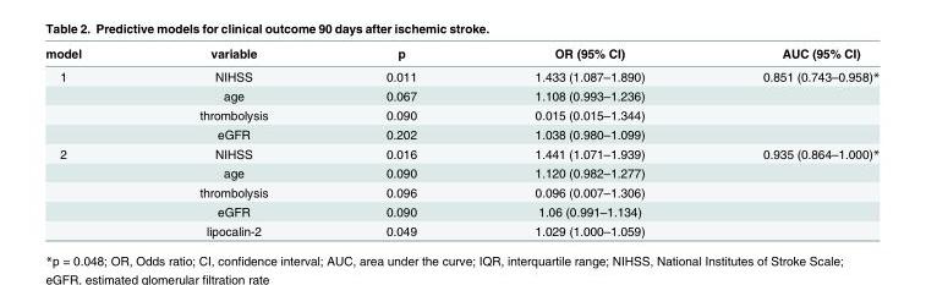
<table><thead><tr><td>model</td><td>variable</td><td>p</td><td>OR (95% CI)</td><td>AUC (95% CI)</td></tr></thead><tbody><tr><td rowspan="4">1</td><td>NIHSS</td><td>0.011</td><td>1.433 (1.087–1.890)</td><td>0.851 (0.743–0.958)*</td></tr><tr><td>age</td><td>0.067</td><td>1.108 (0.993–1.236)</td><td></td></tr><tr><td>thrombolysis</td><td>0.090</td><td>0.015 (0.015–1.344)</td><td></td></tr><tr><td>eGFR</td><td>0.202</td><td>1.038 (0.980–1.099)</td><td></td></tr><tr><td rowspan="5">2</td><td>NIHSS</td><td>0.016</td><td>1.441 (1.071–1.939)</td><td>0.935 (0.864–1.000)*</td></tr><tr><td>age</td><td>0.090</td><td>1.120 (0.982–1.277)</td><td></td></tr><tr><td>thrombolysis</td><td>0.096</td><td>0.096 (0.007–1.306)</td><td></td></tr><tr><td>eGFR</td><td>0.090</td><td>1.06 (0.991–1.134)</td><td></td></tr><tr><td>lipocalin-2</td><td>0.049</td><td>1.029 (1.000–1.059)</td><td></td></tr></tbody></table>